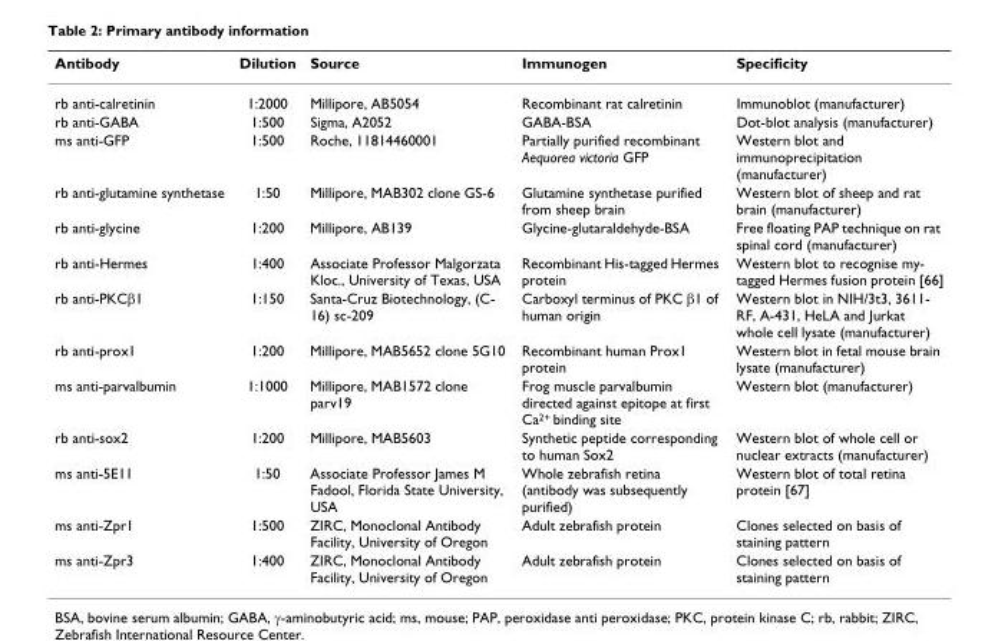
<table><thead><tr><td>Antibody</td><td>Dilution</td><td>Source</td><td>Immunogen</td><td>Specificity</td></tr></thead><tbody><tr><td>rb anti-calretinin</td><td>1:2000</td><td>Millipore, AB5054</td><td>Recombinant rat calretinin</td><td>Immunoblot (manufacturer)</td></tr><tr><td>rb anti-GABA</td><td>1:500</td><td>Sigma, A2052</td><td>GABA-BSA</td><td>Dot-blot analysis (manufacturer)</td></tr><tr><td>ms anti-GFP</td><td>1:500</td><td>Roche, 11814460001</td><td>Partially purified recombinant Aequorea victoria GFP</td><td>Western blot and immunoprecipitation (manufacturer)</td></tr><tr><td>rb anti-glutamine synthetase</td><td>1:50</td><td>Millipore, MAB302 clone GS-6</td><td>Glutamine synthetase purified from sheep brain</td><td>Western blot of sheep and rat brain (manufacturer)</td></tr><tr><td>rb anti-glycine</td><td>1:200</td><td>Millipore, AB139</td><td>Glycine-glutaraldehyde-BSA</td><td>Free floating PAP technique on rat spinal cord (manufacturer)</td></tr><tr><td>rb anti-Hermes</td><td>1:400</td><td>Associate Professor Malgorzata Kloc., University of Texas, USA</td><td>Recombinant His-tagged Hermes protein</td><td>Western blot to recognise my- tagged Hermes fusion protein [66]</td></tr><tr><td>rb anti-PKCβ1</td><td>1:150</td><td>Santa-Cruz Biotechnology, (C- 16) sc-209</td><td>Carboxyl terminus of PKC β1 of human origin</td><td>Western blot in NIH/3t3, 3611- RF, A-431, HeLA and Jurkat whole cell lysate (manufacturer)</td></tr><tr><td>rb anti-prox1</td><td>1:200</td><td>Millipore, MAB5652 clone 5G10</td><td>Recombinant human Prox1 protein</td><td>Western blot in fetal mouse brain lysate (manufacturer)</td></tr><tr><td>ms anti-parvalbumin</td><td>1:1000</td><td>Millipore, MAB1572 clone parv19</td><td>Frog muscle parvalbumin directed against epitope at first Ca<sup>2+</sup> binding site</td><td>Western blot (manufacturer)</td></tr><tr><td>rb anti-sox2</td><td>1:200</td><td>Millipore, MAB5603</td><td>Synthetic peptide corresponding to human Sox2</td><td>Western blot of whole cell or nuclear extracts (manufacturer)</td></tr><tr><td>ms anti-5E11</td><td>1:50</td><td>Associate Professor James M Fadool, Florida State University, USA</td><td>Whole zebrafish retina (antibody was subsequently purified)</td><td>Western blot of total retina protein [67]</td></tr><tr><td>ms anti-Zpr1</td><td>1:500</td><td>ZIRC, Monoclonal Antibody Facility, University of Oregon</td><td>Adult zebrafish protein</td><td>Clones selected on basis of staining pattern</td></tr><tr><td>ms anti-Zpr3</td><td>1:400</td><td>ZIRC, Monoclonal Antibody Facility, University of Oregon</td><td>Adult zebrafish protein</td><td>Clones selected on basis of staining pattern</td></tr></tbody></table>